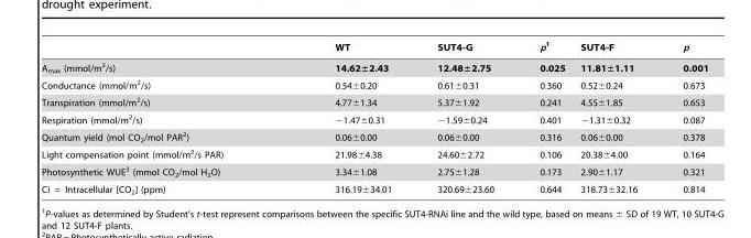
<table><thead><tr><td></td><td>WT</td><td>SUT4-G</td><td>p1</td><td>SUT4-F</td><td>p</td></tr></thead><tbody><tr><td>A<sub>max</sub> (mmol/m<sup>2</sup>/s)</td><td>14.62±2.43</td><td>12.48±2.75</td><td>0.025</td><td>11.81±1.11</td><td>0.001</td></tr><tr><td>Conductance (mmol/m<sup>2</sup>/s)</td><td>0.54±0.20</td><td>0.61±0.31</td><td>0.360</td><td>0.52±0.24</td><td>0.673</td></tr><tr><td>Transpiration (mmol/m<sup>2</sup>/s)</td><td>4.77±1.34</td><td>5.37±1.92</td><td>0.241</td><td>4.55±1.85</td><td>0.653</td></tr><tr><td>Respiration (mmol/m<sup>2</sup>/s)</td><td>−1.47±0.31</td><td>−1.59±0.24</td><td>0.401</td><td>−1.31±0.32</td><td>0.087</td></tr><tr><td>Quantum yield (mol CO<sub>2</sub>/mol PAR<sup>2</sup>)</td><td>0.06±0.00</td><td>0.06±0.00</td><td>0.316</td><td>0.06±0.00</td><td>0.378</td></tr><tr><td>Light compensation point (mmol/m<sup>2</sup>/s PAR)</td><td>21.98±4.38</td><td>24.60±2.72</td><td>0.106</td><td>20.38±4.00</td><td>0.164</td></tr><tr><td>Photosynthetic WUE<sup>3</sup> (mmol CO<sub>2</sub>/mol H<sub>2</sub>O)</td><td>3.34±1.08</td><td>2.75±1.28</td><td>0.173</td><td>2.90±1.17</td><td>0.321</td></tr><tr><td>Ci = Intracellular [CO<sub>2</sub>] (ppm)</td><td>316.19±34.01</td><td>320.69±23.60</td><td>0.644</td><td>318.73±32.16</td><td>0.814</td></tr></tbody></table>